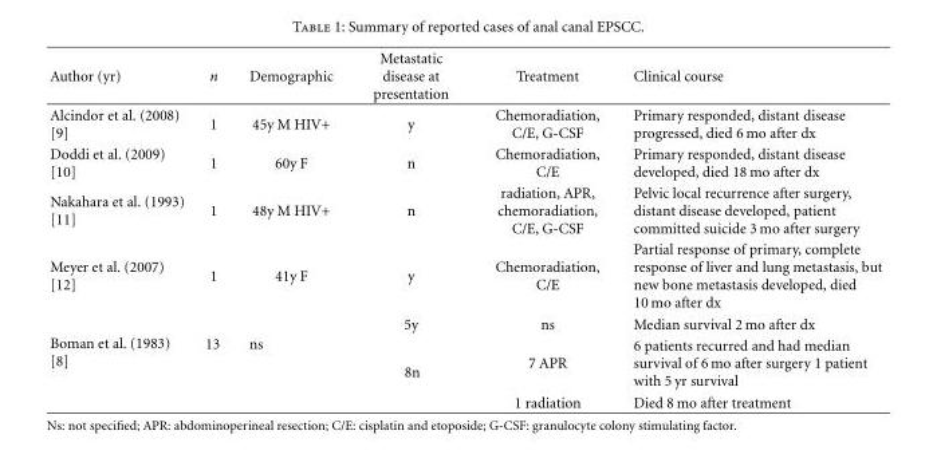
<table><thead><tr><td>Author (yr)</td><td>n</td><td>Demographic</td><td>Metastatic disease at presentation</td><td>Treatment</td><td>Clinical course</td></tr></thead><tbody><tr><td>Alcindor et al. (2008) [9]</td><td>1</td><td>45y M HIV+</td><td>y</td><td>Chemoradiation, C/E, G-CSF</td><td>Primary responded, distant disease progressed, died 6 mo after dx</td></tr><tr><td>Doddi et al. (2009) [10]</td><td>1</td><td>60y F</td><td>n</td><td>Chemoradiation, C/E</td><td>Primary responded, distant disease developed, died 18 mo after dx</td></tr><tr><td>Nakahara et al. (1993) [11]</td><td>1</td><td>48y M HIV+</td><td>n</td><td>radiation, APR, chemoradiation, C/E, G-CSF</td><td>Pelvic local recurrence after surgery, distant disease developed, patient committed suicide 3 mo after surgery</td></tr><tr><td>Meyer et al. (2007) [12]</td><td>1</td><td>41y F</td><td>y</td><td>Chemoradiation, C/E</td><td>Partial response of primary, complete response of liver and lung metastasis, but new bone metastasis developed, died 10 mo after dx</td></tr><tr><td rowspan="3">Boman et al. (1983) [8]</td><td rowspan="3">13</td><td rowspan="3">ns</td><td>5y</td><td>ns</td><td>Median survival 2 mo after dx</td></tr><tr><td rowspan="2">8n</td><td>7 APR</td><td>6 patients recurred and had median survival of 6 mo after surgery 1 patient with 5 yr survival</td></tr><tr><td>1 radiation</td><td>Died 8 mo after treatment</td></tr></tbody></table>